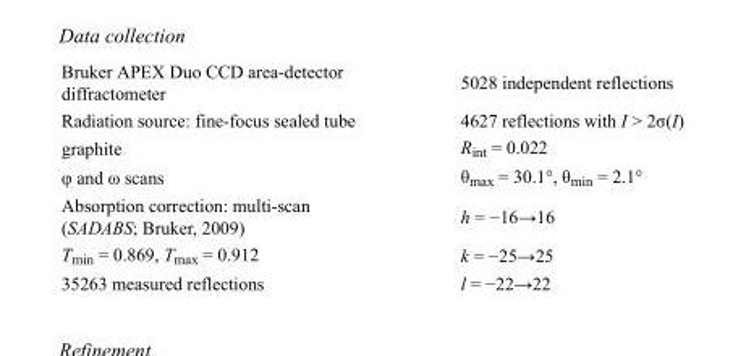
<table><tbody><tr><td>Bruker APEX Duo CCD area-detector diffractometer</td><td>5028 independent reflections</td></tr><tr><td>Radiation source: fine-focus sealed tube</td><td>4627 reflections with I &gt; 2σ(I)</td></tr><tr><td>graphite</td><td>R<sub>int</sub> = 0.022</td></tr><tr><td>φ and ω scans</td><td>θ<sub>max</sub> = 30.1°, θ<sub>min</sub> = 2.1°</td></tr><tr><td>Absorption correction: multi-scan (SADABS; Bruker, 2009)</td><td>h = −16→16</td></tr><tr><td>T<sub>min</sub> = 0.869, T<sub>max</sub> = 0.912</td><td>k = −25→25</td></tr><tr><td>35263 measured reflections</td><td>l = −22→22</td></tr></tbody></table>